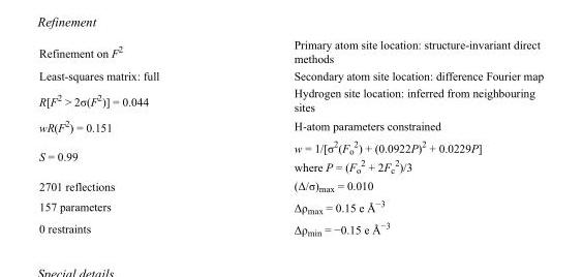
<table><tbody><tr><td>Refinement on F<sup>2</sup></td><td>Primary atom site location: structure-invariant direct methods</td></tr><tr><td>Least-squares matrix: full</td><td>Secondary atom site location: difference Fourier map</td></tr><tr><td>R[F<sup>2</sup> &gt; 2σ(F<sup>2</sup>)] = 0.044</td><td>Hydrogen site location: inferred from neighbouring sites</td></tr><tr><td>wR(F<sup>2</sup>) = 0.151</td><td>H-atom parameters constrained</td></tr><tr><td>S = 0.99</td><td>w = 1/[σ<sup>2</sup>(F<sub>o</sub> <sup>2</sup>) + (0.0922P)<sup>2</sup> + 0.0229P] where P = (F<sub>o</sub> <sup>2</sup> + 2F<sub>c</sub> <sup>2</sup>)/3</td></tr><tr><td>2701 reflections</td><td>(Δ/σ)<sub>max</sub> = 0.010</td></tr><tr><td>157 parameters</td><td>Δρ<sub>max</sub> = 0.15 e Å<sup>−3</sup></td></tr><tr><td>0 restraints</td><td>Δρ<sub>min</sub> = −0.15 e Å<sup>−3</sup></td></tr></tbody></table>